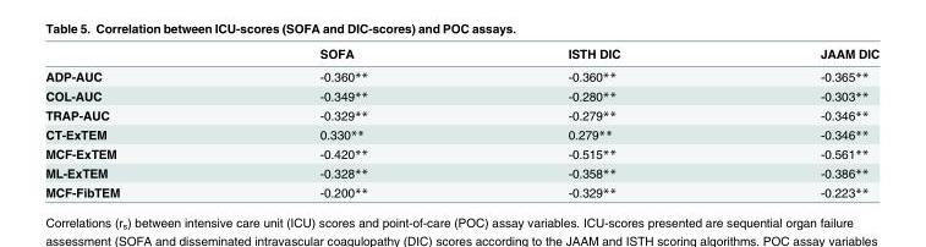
<table><thead><tr><td></td><td>SOFA</td><td>ISTH DIC</td><td>JAAM DIC</td></tr></thead><tbody><tr><td>ADP-AUC</td><td>-0.360**</td><td>-0.360**</td><td>-0.365**</td></tr><tr><td>COL-AUC</td><td>-0.349**</td><td>-0.280**</td><td>-0.303**</td></tr><tr><td>TRAP-AUC</td><td>-0.329**</td><td>-0.279**</td><td>-0.346**</td></tr><tr><td>CT-ExTEM</td><td>0.330**</td><td>0.279**</td><td>-0.346**</td></tr><tr><td>MCF-ExTEM</td><td>-0.420**</td><td>-0.515**</td><td>-0.561**</td></tr><tr><td>ML-ExTEM</td><td>-0.328**</td><td>-0.358**</td><td>-0.386**</td></tr><tr><td>MCF-FibTEM</td><td>-0.200**</td><td>-0.329**</td><td>-0.223**</td></tr></tbody></table>